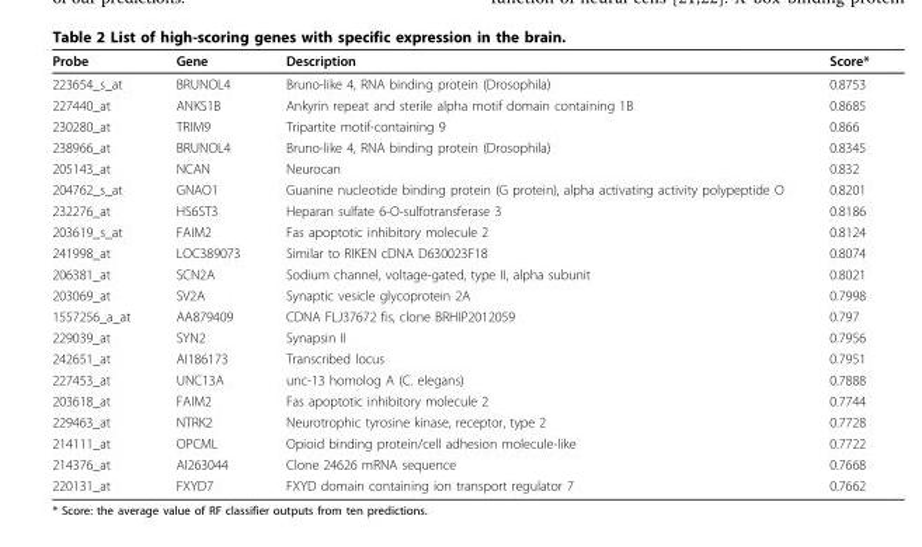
<table><thead><tr><td>Probe</td><td>Gene</td><td>Description</td><td>Score*</td></tr></thead><tbody><tr><td>223654_s_at</td><td>BRUNOL4</td><td>Bruno-like 4, RNA binding protein (Drosophila)</td><td>0.8753</td></tr><tr><td>227440_at</td><td>ANKS1B</td><td>Ankyrin repeat and sterile alpha motif domain containing 1B</td><td>0.8685</td></tr><tr><td>230280_at</td><td>TRIM9</td><td>Tripartite motif-containing 9</td><td>0.866</td></tr><tr><td>238966_at</td><td>BRUNOL4</td><td>Bruno-like 4, RNA binding protein (Drosophila)</td><td>0.8345</td></tr><tr><td>205143_at</td><td>NCAN</td><td>Neurocan</td><td>0.832</td></tr><tr><td>204762_s_at</td><td>GNAO1</td><td>Guanine nucleotide binding protein (G protein), alpha activating activity polypeptide O</td><td>0.8201</td></tr><tr><td>232276_at</td><td>HS6ST3</td><td>Heparan sulfate 6-O-sulfotransferase 3</td><td>0.8186</td></tr><tr><td>203619_s_at</td><td>FAIM2</td><td>Fas apoptotic inhibitory molecule 2</td><td>0.8124</td></tr><tr><td>241998_at</td><td>LOC389073</td><td>Similar to RIKEN cDNA D630023F18</td><td>0.8074</td></tr><tr><td>206381_at</td><td>SCN2A</td><td>Sodium channel, voltage-gated, type II, alpha subunit</td><td>0.8021</td></tr><tr><td>203069_at</td><td>SV2A</td><td>Synaptic vesicle glycoprotein 2A</td><td>0.7998</td></tr><tr><td>1557256_a_at</td><td>AA879409</td><td>CDNA FLJ37672 fis, clone BRHIP2012059</td><td>0.797</td></tr><tr><td>229039_at</td><td>SYN2</td><td>Synapsin II</td><td>0.7956</td></tr><tr><td>242651_at</td><td>AI186173</td><td>Transcribed locus</td><td>0.7951</td></tr><tr><td>227453_at</td><td>UNC13A</td><td>unc-13 homolog A (C. elegans)</td><td>0.7888</td></tr><tr><td>203618_at</td><td>FAIM2</td><td>Fas apoptotic inhibitory molecule 2</td><td>0.7744</td></tr><tr><td>229463_at</td><td>NTRK2</td><td>Neurotrophic tyrosine kinase, receptor, type 2</td><td>0.7728</td></tr><tr><td>214111_at</td><td>OPCML</td><td>Opioid binding protein/cell adhesion molecule-like</td><td>0.7722</td></tr><tr><td>214376_at</td><td>AI263044</td><td>Clone 24626 mRNA sequence</td><td>0.7668</td></tr><tr><td>220131_at</td><td>FXYD7</td><td>FXYD domain containing ion transport regulator 7</td><td>0.7662</td></tr></tbody></table>